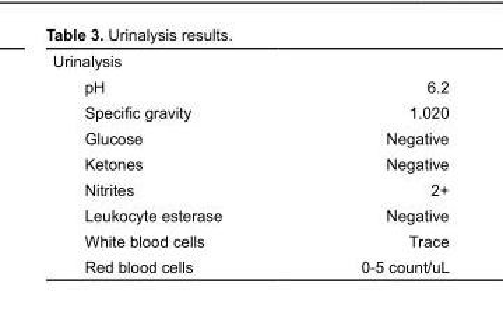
<table><tbody><tr><td colspan="2">Urinalysis</td></tr><tr><td>pH</td><td>6.2</td></tr><tr><td>Specific gravity</td><td>1.020</td></tr><tr><td>Glucose</td><td>Negative</td></tr><tr><td>Ketones</td><td>Negative</td></tr><tr><td>Nitrites</td><td>2+</td></tr><tr><td>Leukocyte esterase</td><td>Negative</td></tr><tr><td>White blood cells</td><td>Trace</td></tr><tr><td>Red blood cells</td><td>0-5 count/uL</td></tr></tbody></table>